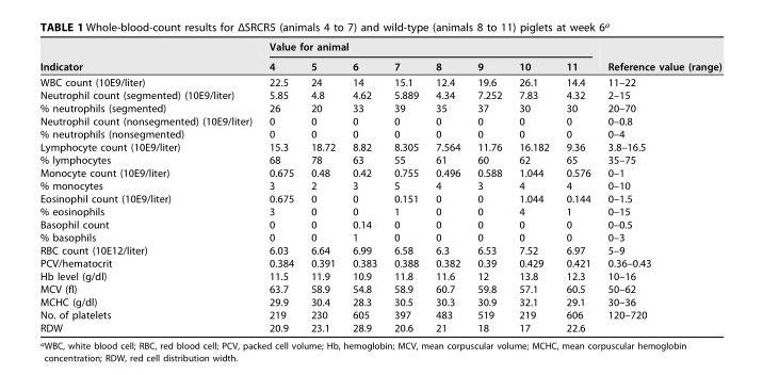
<table><thead><tr><td rowspan="2">Indicator</td><td colspan="8">Value for animal</td><td rowspan="2">Reference value (range)</td></tr><tr><td>4</td><td>5</td><td>6</td><td>7</td><td>8</td><td>9</td><td>10</td><td>11</td></tr></thead><tbody><tr><td>WBC count (10E9/liter)</td><td>22.5</td><td>24</td><td>14</td><td>15.1</td><td>12.4</td><td>19.6</td><td>26.1</td><td>14.4</td><td>11–22</td></tr><tr><td>Neutrophil count (segmented) (10E9/liter)</td><td>5.85</td><td>4.8</td><td>4.62</td><td>5.889</td><td>4.34</td><td>7.252</td><td>7.83</td><td>4.32</td><td>2–15</td></tr><tr><td>% neutrophils (segmented)</td><td>26</td><td>20</td><td>33</td><td>39</td><td>35</td><td>37</td><td>30</td><td>30</td><td>20–70</td></tr><tr><td>Neutrophil count (nonsegmented) (10E9/liter)</td><td>0</td><td>0</td><td>0</td><td>0</td><td>0</td><td>0</td><td>0</td><td>0</td><td>0–0.8</td></tr><tr><td>% neutrophils (nonsegmented)</td><td>0</td><td>0</td><td>0</td><td>0</td><td>0</td><td>0</td><td>0</td><td>0</td><td>0–4</td></tr><tr><td>Lymphocyte count (10E9/liter)</td><td>15.3</td><td>18.72</td><td>8.82</td><td>8.305</td><td>7.564</td><td>11.76</td><td>16.182</td><td>9.36</td><td>3.8–16.5</td></tr><tr><td>% lymphocytes</td><td>68</td><td>78</td><td>63</td><td>55</td><td>61</td><td>60</td><td>62</td><td>65</td><td>35–75</td></tr><tr><td>Monocyte count (10E9/liter)</td><td>0.675</td><td>0.48</td><td>0.42</td><td>0.755</td><td>0.496</td><td>0.588</td><td>1.044</td><td>0.576</td><td>0–1</td></tr><tr><td>% monocytes</td><td>3</td><td>2</td><td>3</td><td>5</td><td>4</td><td>3</td><td>4</td><td>4</td><td>0–10</td></tr><tr><td>Eosinophil count (10E9/liter)</td><td>0.675</td><td>0</td><td>0</td><td>0.151</td><td>0</td><td>0</td><td>1.044</td><td>0.144</td><td>0–1.5</td></tr><tr><td>% eosinophils</td><td>3</td><td>0</td><td>0</td><td>1</td><td>0</td><td>0</td><td>4</td><td>1</td><td>0–15</td></tr><tr><td>Basophil count</td><td>0</td><td>0</td><td>0.14</td><td>0</td><td>0</td><td>0</td><td>0</td><td>0</td><td>0–0.5</td></tr><tr><td>% basophils</td><td>0</td><td>0</td><td>1</td><td>0</td><td>0</td><td>0</td><td>0</td><td>0</td><td>0–3</td></tr><tr><td>RBC count (10E12/liter)</td><td>6.03</td><td>6.64</td><td>6.99</td><td>6.58</td><td>6.3</td><td>6.53</td><td>7.52</td><td>6.97</td><td>5–9</td></tr><tr><td>PCV/hematocrit</td><td>0.384</td><td>0.391</td><td>0.383</td><td>0.388</td><td>0.382</td><td>0.39</td><td>0.429</td><td>0.421</td><td>0.36–0.43</td></tr><tr><td>Hb level (g/dl)</td><td>11.5</td><td>11.9</td><td>10.9</td><td>11.8</td><td>11.6</td><td>12</td><td>13.8</td><td>12.3</td><td>10–16</td></tr><tr><td>MCV (fl)</td><td>63.7</td><td>58.9</td><td>54.8</td><td>58.9</td><td>60.7</td><td>59.8</td><td>57.1</td><td>60.5</td><td>50–62</td></tr><tr><td>MCHC (g/dl)</td><td>29.9</td><td>30.4</td><td>28.3</td><td>30.5</td><td>30.3</td><td>30.9</td><td>32.1</td><td>29.1</td><td>30–36</td></tr><tr><td>No. of platelets</td><td>219</td><td>230</td><td>605</td><td>397</td><td>483</td><td>519</td><td>219</td><td>606</td><td>120–720</td></tr><tr><td>RDW</td><td>20.9</td><td>23.1</td><td>28.9</td><td>20.6</td><td>21</td><td>18</td><td>17</td><td>22.6</td><td></td></tr></tbody></table>